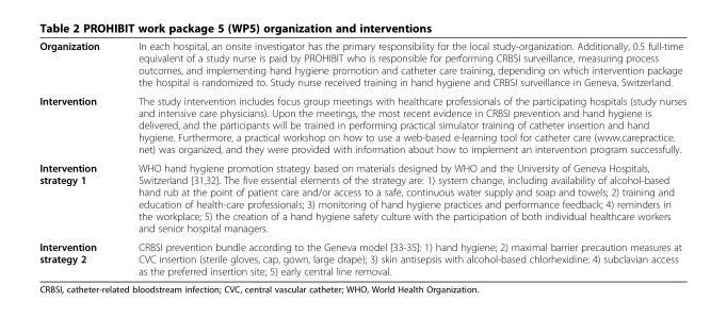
<table><tbody><tr><td>Organization</td><td>In each hospital, an onsite investigator has the primary responsibility for the local study-organization. Additionally, 0.5 full-time equivalent of a study nurse is paid by PROHIBIT who is responsible for performing CRBSI surveillance, measuring process outcomes, and implementing hand hygiene promotion and catheter care training, depending on which intervention package the hospital is randomized to. Study nurse received training in hand hygiene and CRBSI surveillance in Geneva, Switzerland.</td></tr><tr><td>Intervention</td><td>The study intervention includes focus group meetings with healthcare professionals of the participating hospitals (study nurses and intensive care physicians). Upon the meetings, the most recent evidence in CRBSI prevention and hand hygiene is delivered, and the participants will be trained in performing practical simulator training of catheter insertion and hand hygiene. Furthermore, a practical workshop on how to use a web-based e-learning tool for catheter care (www.carepractice. net) was organized, and they were provided with information about how to implement an intervention program successfully.</td></tr><tr><td>Intervention strategy 1</td><td>WHO hand hygiene promotion strategy based on materials designed by WHO and the University of Geneva Hospitals, Switzerland [31,32]. The five essential elements of the strategy are: 1) system change, including availability of alcohol-based hand rub at the point of patient care and/or access to a safe, continuous water supply and soap and towels; 2) training and education of health-care professionals; 3) monitoring of hand hygiene practices and performance feedback; 4) reminders in the workplace; 5) the creation of a hand hygiene safety culture with the participation of both individual healthcare workers and senior hospital managers.</td></tr><tr><td>Intervention strategy 2</td><td>CRBSI prevention bundle according to the Geneva model [33-35]: 1) hand hygiene; 2) maximal barrier precaution measures at CVC insertion (sterile gloves, cap, gown, large drape); 3) skin antisepsis with alcohol-based chlorhexidine; 4) subclavian access as the preferred insertion site; 5) early central line removal.</td></tr></tbody></table>